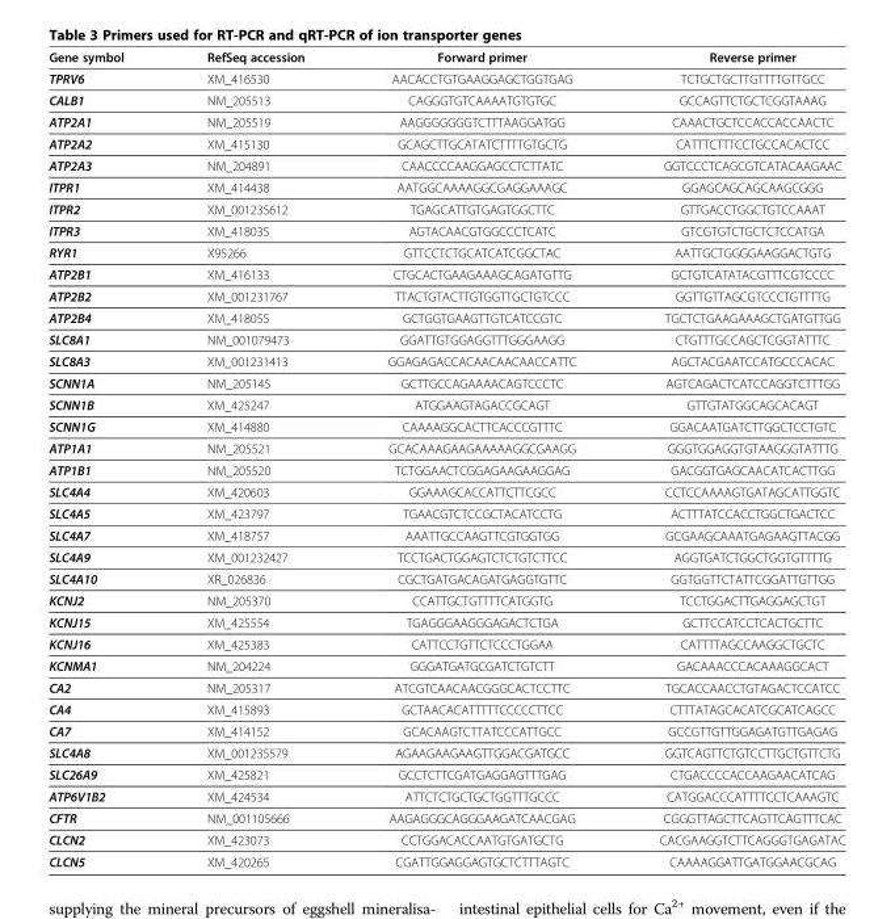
<table><thead><tr><td>Gene symbol</td><td>RefSeq accession</td><td>Forward primer</td><td>Reverse primer</td></tr></thead><tbody><tr><td>TPRV6</td><td>XM_416530</td><td>AACACCTGTGAAGGAGCTGGTGAG</td><td>TCTGCTGCTTGTTTTGTTGCC</td></tr><tr><td>CALB1</td><td>NM_205513</td><td>CAGGGTGTCAAAATGTGTGC</td><td>GCCAGTTCTGCTCGGTAAAG</td></tr><tr><td>ATP2A1</td><td>NM_205519</td><td>AAGGGGGGGTCTTTAAGGATGG</td><td>CAAACTGCTCCACCACCAACTC</td></tr><tr><td>ATP2A2</td><td>XM_415130</td><td>GCAGCTTGCATATCTTTTGTGCTG</td><td>CATTTCTTTCCTGCCACACTCC</td></tr><tr><td>ATP2A3</td><td>NM_204891</td><td>CAACCCCAAGGAGCCTCTTATC</td><td>GGTCCCTCAGCGTCATACAAGAAC</td></tr><tr><td>ITPR1</td><td>XM_414438</td><td>AATGGCAAAAGGCGAGGAAAGC</td><td>GGAGCAGCAGCAAGCGGG</td></tr><tr><td>ITPR2</td><td>XM_001235612</td><td>TGAGCATTGTGAGTGGCTTC</td><td>GTTGACCTGGCTGTCCAAAT</td></tr><tr><td>ITPR3</td><td>XM_418035</td><td>AGTACAACGTGGCCCTCATC</td><td>GTCGTGTCTGCTCTCCATGA</td></tr><tr><td>RYR1</td><td>X95266</td><td>GTTCCTCTGCATCATCGGCTAC</td><td>AATTGCTGGGGAAGGACTGTG</td></tr><tr><td>ATP2B1</td><td>XM_416133</td><td>CTGCACTGAAGAAAGCAGATGTTG</td><td>GCTGTCATATACGTTTCGTCCCC</td></tr><tr><td>ATP2B2</td><td>XM_001231767</td><td>TTACTGTACTTGTGGTTGCTGTCCC</td><td>GGTTGTTAGCGTCCCTGTTTTG</td></tr><tr><td>ATP2B4</td><td>XM_418055</td><td>GCTGGTGAAGTTGTCATCCGTC</td><td>TGCTCTGAAGAAAGCTGATGTTGG</td></tr><tr><td>SLC8A1</td><td>NM_001079473</td><td>GGATTGTGGAGGTTTGGGAAGG</td><td>CTGTTTGCCAGCTCGGTATTTC</td></tr><tr><td>SLC8A3</td><td>XM_001231413</td><td>GGAGAGACCACAACAACAACCATTC</td><td>AGCTACGAATCCATGCCCACAC</td></tr><tr><td>SCNN1A</td><td>NM_205145</td><td>GCTTGCCAGAAAACAGTCCCTC</td><td>AGTCAGACTCATCCAGGTCTTTGG</td></tr><tr><td>SCNN1B</td><td>XM_425247</td><td>ATGGAAGTAGACCGCAGT</td><td>GTTGTATGGCAGCACAGT</td></tr><tr><td>SCNN1G</td><td>XM_414880</td><td>CAAAAGGCACTTCACCCGTTTC</td><td>GGACAATGATCTTGGCTCCTGTC</td></tr><tr><td>ATP1A1</td><td>NM_205521</td><td>GCACAAAGAAGAAAAAGGCGAAGG</td><td>GGGTGGAGGTGTAAGGGTATTTG</td></tr><tr><td>ATP1B1</td><td>NM_205520</td><td>TCTGGAACTCGGAGAAGAAGGAG</td><td>GACGGTGAGCAACATCACTTGG</td></tr><tr><td>SLC4A4</td><td>XM_420603</td><td>GGAAAGCACCATTCTTCGCC</td><td>CCTCCAAAAGTGATAGCATTGGTC</td></tr><tr><td>SLC4A5</td><td>XM_423797</td><td>TGAACGTCTCCGCTACATCCTG</td><td>ACTTTATCCACCTGGCTGACTCC</td></tr><tr><td>SLC4A7</td><td>XM_418757</td><td>AAATTGCCAAGTTCGTGGTGG</td><td>GCGAAGCAAATGAGAAGTTACGG</td></tr><tr><td>SLC4A9</td><td>XM_001232427</td><td>TCCTGACTGGAGTCTCTGTCTTCC</td><td>AGGTGATCTGGCTGGTGTTTTG</td></tr><tr><td>SLC4A10</td><td>XR_026836</td><td>CGCTGATGACAGATGAGGTGTTC</td><td>GGTGGTTCTATTCGGATTGTTGG</td></tr><tr><td>KCNJ2</td><td>NM_205370</td><td>CCATTGCTGTTTTCATGGTG</td><td>TCCTGGACTTGAGGAGCTGT</td></tr><tr><td>KCNJ15</td><td>XM_425554</td><td>TGAGGGAAGGGAGACTCTGA</td><td>GCTTCCATCCTCACTGCTTC</td></tr><tr><td>KCNJ16</td><td>XM_425383</td><td>CATTCCTGTTCTCCCTGGAA</td><td>CATTTTAGCCAAGGCTGCTC</td></tr><tr><td>KCNMA1</td><td>NM_204224</td><td>GGGATGATGCGATCTGTCTT</td><td>GACAAACCCACAAAGGCACT</td></tr><tr><td>CA2</td><td>NM_205317</td><td>ATCGTCAACAACGGGCACTCCTTC</td><td>TGCACCAACCTGTAGACTCCATCC</td></tr><tr><td>CA4</td><td>XM_415893</td><td>GCTAACACATTTTTCCCCCTTCC</td><td>CTTTATAGCACATCGCATCAGCC</td></tr><tr><td>CA7</td><td>XM_414152</td><td>GCACAAGTCTTATCCCATTGCC</td><td>GCCGTTGTTGGAGATGTTGAGAG</td></tr><tr><td>SLC4A8</td><td>XM_001235579</td><td>AGAAGAAGAAGTTGGACGATGCC</td><td>GGTCAGTTCTGTCCTTGCTGTTCTG</td></tr><tr><td>SLC26A9</td><td>XM_425821</td><td>GCCTCTTCGATGAGGAGTTTGAG</td><td>CTGACCCCACCAAGAACATCAG</td></tr><tr><td>ATP6V1B2</td><td>XM_424534</td><td>ATTCTCTGCTGCTGGTTTGCCC</td><td>CATGGACCCATTTTCCTCAAAGTC</td></tr><tr><td>CFTR</td><td>NM_001105666</td><td>AAGAGGGCAGGGAAGATCAACGAG</td><td>CGGGTTAGCTTCAGTTCAGTTTCAC</td></tr><tr><td>CLCN2</td><td>XM_423073</td><td>CCTGGACACCAATGTGATGCTG</td><td>CACGAAGGTCTTCAGGGTGAGATAC</td></tr><tr><td>CLCN5</td><td>XM_420265</td><td>CGATTGGAGGAGTGCTCTTTAGTC</td><td>CAAAAGGATTGATGGAACGCAG</td></tr></tbody></table>